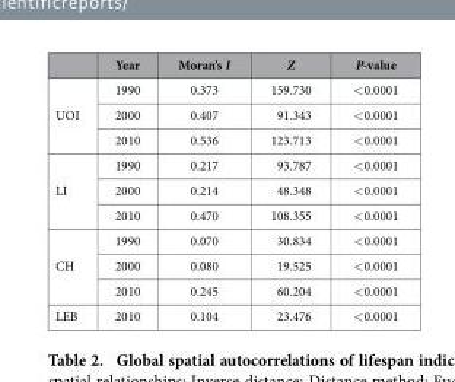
<table><thead><tr><td></td><td>Year</td><td>Moran’s I</td><td>Z</td><td>P-value</td></tr></thead><tbody><tr><td rowspan="3">UOI</td><td>1990</td><td>0.373</td><td>159.730</td><td>&lt; 0.0001</td></tr><tr><td>2000</td><td>0.407</td><td>91.343</td><td>&lt; 0.0001</td></tr><tr><td>2010</td><td>0.536</td><td>123.713</td><td>&lt; 0.0001</td></tr><tr><td rowspan="3">LI</td><td>1990</td><td>0.217</td><td>93.787</td><td>&lt; 0.0001</td></tr><tr><td>2000</td><td>0.214</td><td>48.348</td><td>&lt; 0.0001</td></tr><tr><td>2010</td><td>0.470</td><td>108.355</td><td>&lt; 0.0001</td></tr><tr><td rowspan="3">CH</td><td>1990</td><td>0.070</td><td>30.834</td><td>&lt; 0.0001</td></tr><tr><td>2000</td><td>0.080</td><td>19.525</td><td>&lt; 0.0001</td></tr><tr><td>2010</td><td>0.245</td><td>60.204</td><td>&lt; 0.0001</td></tr><tr><td>LEB</td><td>2010</td><td>0.104</td><td>23.476</td><td>&lt; 0.0001</td></tr></tbody></table>